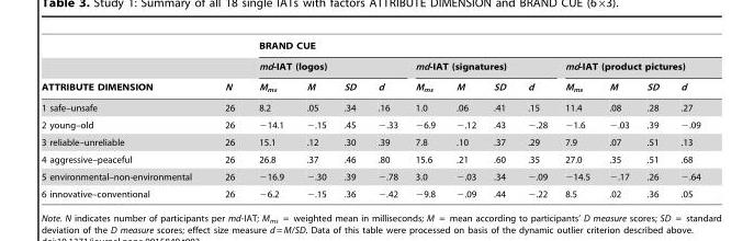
<table><thead><tr><td rowspan="3">ATTRIBUTE DIMENSION</td><td rowspan="3">N</td><td colspan="12">BRAND CUE</td></tr><tr><td colspan="4">md-IAT (logos)</td><td colspan="4">md-IAT (signatures)</td><td colspan="4">md-IAT (product pictures)</td></tr><tr><td>M<sub>ms</sub></td><td>M</td><td>SD</td><td>d</td><td>M<sub>ms</sub></td><td>M</td><td>SD</td><td>d</td><td>M<sub>ms</sub></td><td>M</td><td>SD</td><td>d</td></tr></thead><tbody><tr><td>1 safe–unsafe</td><td>26</td><td>8.2</td><td>.05</td><td>.34</td><td>.16</td><td>1.0</td><td>.06</td><td>.41</td><td>.15</td><td>11.4</td><td>.08</td><td>.28</td><td>.27</td></tr><tr><td>2 young–old</td><td>26</td><td>−14.1</td><td>−.15</td><td>.45</td><td>−.33</td><td>−6.9</td><td>−.12</td><td>.43</td><td>−.28</td><td>−1.6</td><td>−.03</td><td>.39</td><td>−.09</td></tr><tr><td>3 reliable–unreliable</td><td>26</td><td>15.1</td><td>.12</td><td>.30</td><td>.39</td><td>7.8</td><td>.10</td><td>.37</td><td>.29</td><td>7.9</td><td>.07</td><td>.51</td><td>.13</td></tr><tr><td>4 aggressive–peaceful</td><td>26</td><td>26.8</td><td>.37</td><td>.46</td><td>.80</td><td>15.6</td><td>.21</td><td>.60</td><td>.35</td><td>27.0</td><td>.35</td><td>.51</td><td>.68</td></tr><tr><td>5 environmental–non-environmental</td><td>26</td><td>−16.9</td><td>−.30</td><td>.39</td><td>−.78</td><td>3.0</td><td>−.03</td><td>.34</td><td>−.09</td><td>−14.5</td><td>−.17</td><td>.26</td><td>−.64</td></tr><tr><td>6 innovative–conventional</td><td>26</td><td>−6.2</td><td>−.15</td><td>.36</td><td>−.42</td><td>−9.8</td><td>−.09</td><td>.44</td><td>−.22</td><td>8.5</td><td>.02</td><td>.36</td><td>.05</td></tr></tbody></table>